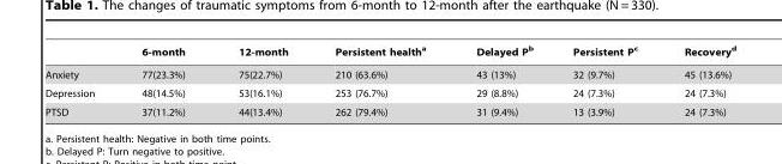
<table><thead><tr><td></td><td>6-month</td><td>12-month</td><td>Persistent health<sup>a</sup></td><td>Delayed P<sup>b</sup></td><td>Persistent P<sup>c</sup></td><td>Recovery<sup>d</sup></td></tr></thead><tbody><tr><td>Anxiety</td><td>77(23.3%)</td><td>75(22.7%)</td><td>210 (63.6%)</td><td>43 (13%)</td><td>32 (9.7%)</td><td>45 (13.6%)</td></tr><tr><td>Depression</td><td>48(14.5%)</td><td>53(16.1%)</td><td>253 (76.7%)</td><td>29 (8.8%)</td><td>24 (7.3%)</td><td>24 (7.3%)</td></tr><tr><td>PTSD</td><td>37(11.2%)</td><td>44(13.4%)</td><td>262 (79.4%)</td><td>31 (9.4%)</td><td>13 (3.9%)</td><td>24 (7.3%)</td></tr></tbody></table>